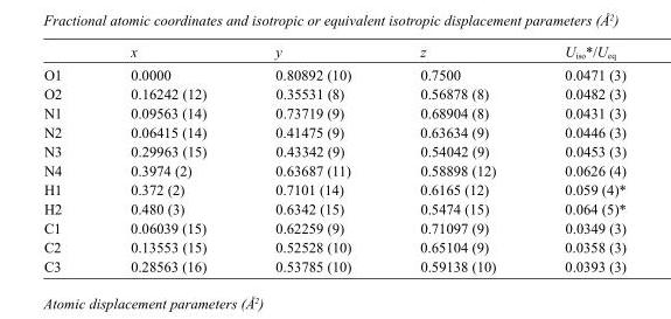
<table><thead><tr><td></td><td>x</td><td>y</td><td>z</td><td>U<sub>iso</sub>*/U<sub>eq</sub></td></tr></thead><tbody><tr><td>O1</td><td>0.0000</td><td>0.80892 (10)</td><td>0.7500</td><td>0.0471 (3)</td></tr><tr><td>O2</td><td>0.16242 (12)</td><td>0.35531 (8)</td><td>0.56878 (8)</td><td>0.0482 (3)</td></tr><tr><td>N1</td><td>0.09563 (14)</td><td>0.73719 (9)</td><td>0.68904 (8)</td><td>0.0431 (3)</td></tr><tr><td>N2</td><td>0.06415 (14)</td><td>0.41475 (9)</td><td>0.63634 (9)</td><td>0.0446 (3)</td></tr><tr><td>N3</td><td>0.29963 (15)</td><td>0.43342 (9)</td><td>0.54042 (9)</td><td>0.0453 (3)</td></tr><tr><td>N4</td><td>0.3974 (2)</td><td>0.63687 (11)</td><td>0.58898 (12)</td><td>0.0626 (4)</td></tr><tr><td>H1</td><td>0.372 (2)</td><td>0.7101 (14)</td><td>0.6165 (12)</td><td>0.059 (4)*</td></tr><tr><td>H2</td><td>0.480 (3)</td><td>0.6342 (15)</td><td>0.5474 (15)</td><td>0.064 (5)*</td></tr><tr><td>C1</td><td>0.06039 (15)</td><td>0.62259 (9)</td><td>0.71097 (9)</td><td>0.0349 (3)</td></tr><tr><td>C2</td><td>0.13553 (15)</td><td>0.52528 (10)</td><td>0.65104 (9)</td><td>0.0358 (3)</td></tr><tr><td>C3</td><td>0.28563 (16)</td><td>0.53785 (10)</td><td>0.59138 (10)</td><td>0.0393 (3)</td></tr></tbody></table>